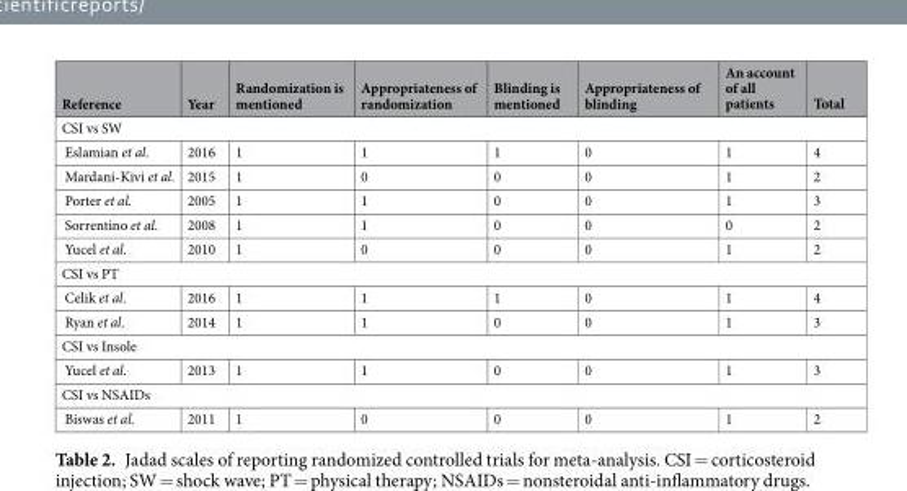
<table><thead><tr><td>Reference</td><td>Year</td><td>Randomization is mentioned</td><td>Appropriateness of randomization</td><td>Blinding is mentioned</td><td>Appropriateness of blinding</td><td>An account of all patients</td><td>Total</td></tr></thead><tbody><tr><td colspan="8">CSI vs SW</td></tr><tr><td>Eslamian et al.</td><td>2016</td><td>1</td><td>1</td><td>1</td><td>0</td><td>1</td><td>4</td></tr><tr><td>Mardani-Kivi et al.</td><td>2015</td><td>1</td><td>0</td><td>0</td><td>0</td><td>1</td><td>2</td></tr><tr><td>Porter et al.</td><td>2005</td><td>1</td><td>1</td><td>0</td><td>0</td><td>1</td><td>3</td></tr><tr><td>Sorrentino et al.</td><td>2008</td><td>1</td><td>1</td><td>0</td><td>0</td><td>0</td><td>2</td></tr><tr><td>Yucel et al.</td><td>2010</td><td>1</td><td>0</td><td>0</td><td>0</td><td>1</td><td>2</td></tr><tr><td colspan="8">CSI vs PT</td></tr><tr><td>Celik et al.</td><td>2016</td><td>1</td><td>1</td><td>1</td><td>0</td><td>1</td><td>4</td></tr><tr><td>Ryan et al.</td><td>2014</td><td>1</td><td>1</td><td>0</td><td>0</td><td>1</td><td>3</td></tr><tr><td colspan="8">CSI vs Insole</td></tr><tr><td>Yucel et al.</td><td>2013</td><td>1</td><td>1</td><td>0</td><td>0</td><td>1</td><td>3</td></tr><tr><td colspan="8">CSI vs NSAIDs</td></tr><tr><td>Biswas et al.</td><td>2011</td><td>1</td><td>0</td><td>0</td><td>0</td><td>1</td><td>2</td></tr></tbody></table>